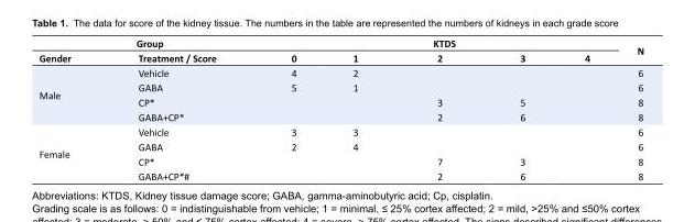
<table><thead><tr><td rowspan="2">Gender</td><td rowspan="2">Group Treatment / Score</td><td colspan="5">KTDS</td><td rowspan="2">N</td></tr><tr><td>0</td><td>1</td><td>2</td><td>3</td><td>4</td></tr></thead><tbody><tr><td rowspan="4">Male</td><td>Vehicle</td><td>4</td><td>2</td><td></td><td></td><td></td><td>6</td></tr><tr><td>GABA</td><td>5</td><td>1</td><td></td><td></td><td></td><td>6</td></tr><tr><td>CP*</td><td></td><td></td><td>3</td><td>5</td><td></td><td>8</td></tr><tr><td>GABA+CP*</td><td></td><td></td><td>2</td><td>6</td><td></td><td>8</td></tr><tr><td rowspan="4">Female</td><td>Vehicle</td><td>3</td><td>3</td><td></td><td></td><td></td><td>6</td></tr><tr><td>GABA</td><td>2</td><td>4</td><td></td><td></td><td></td><td>6</td></tr><tr><td>CP*</td><td></td><td></td><td>7</td><td>3</td><td></td><td>8</td></tr><tr><td>GABA+CP*#</td><td></td><td></td><td>2</td><td>6</td><td></td><td>8</td></tr></tbody></table>